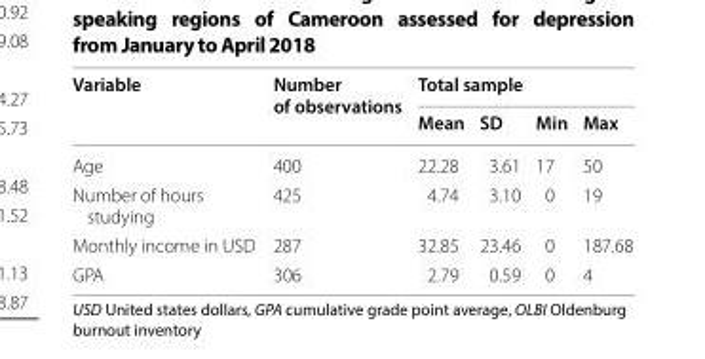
<table><thead><tr><td rowspan="2">Variable</td><td rowspan="2">Number of observations</td><td colspan="4">Total sample</td></tr><tr><td>Mean</td><td>SD</td><td>Min</td><td>Max</td></tr></thead><tbody><tr><td>Age</td><td>400</td><td>22.28</td><td>3.61</td><td>17</td><td>50</td></tr><tr><td>Number of hours studying</td><td>425</td><td>4.74</td><td>3.10</td><td>0</td><td>19</td></tr><tr><td>Monthly income in USD</td><td>287</td><td>32.85</td><td>23.46</td><td>0</td><td>187.68</td></tr><tr><td>GPA</td><td>306</td><td>2.79</td><td>0.59</td><td>0</td><td>4</td></tr></tbody></table>